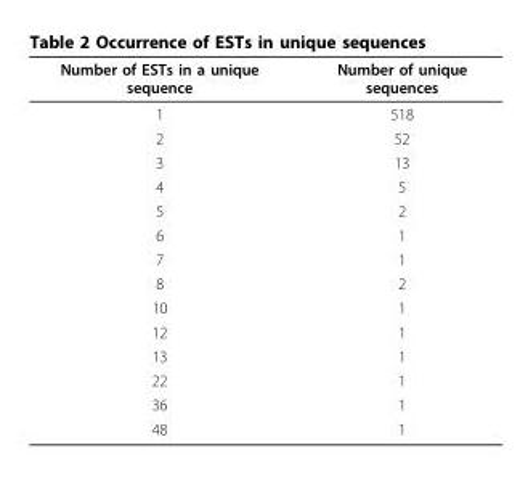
<table><thead><tr><td>Number of ESTs in a unique sequence</td><td>Number of unique sequences</td></tr></thead><tbody><tr><td>1</td><td>518</td></tr><tr><td>2</td><td>52</td></tr><tr><td>3</td><td>13</td></tr><tr><td>4</td><td>5</td></tr><tr><td>5</td><td>2</td></tr><tr><td>6</td><td>1</td></tr><tr><td>7</td><td>1</td></tr><tr><td>8</td><td>2</td></tr><tr><td>10</td><td>1</td></tr><tr><td>12</td><td>1</td></tr><tr><td>13</td><td>1</td></tr><tr><td>22</td><td>1</td></tr><tr><td>36</td><td>1</td></tr><tr><td>48</td><td>1</td></tr></tbody></table>